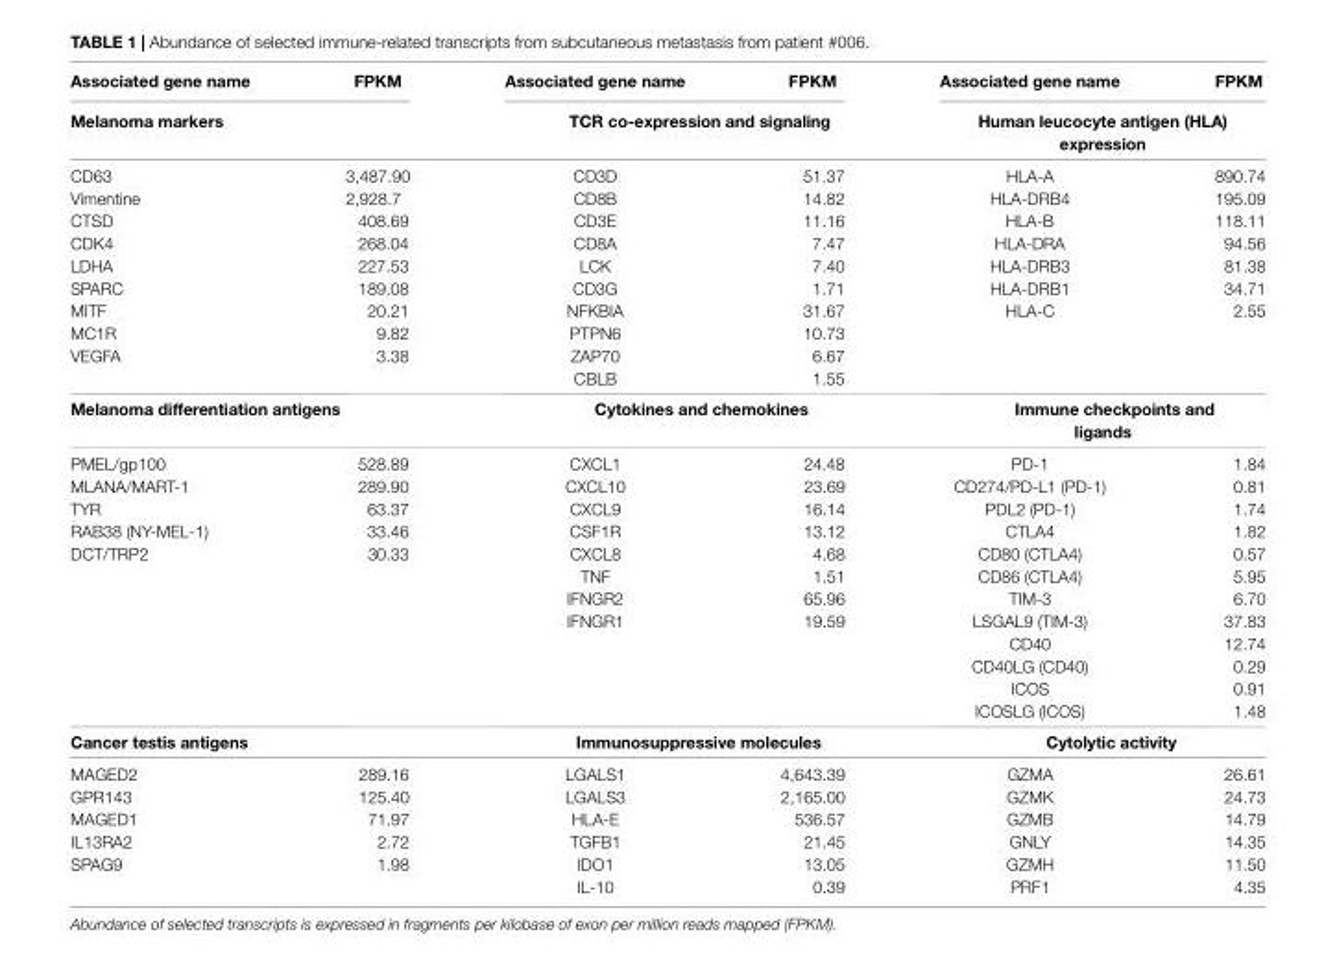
<table><thead><tr><td>associated gene name</td><td>FpKM</td><td>associated gene name</td><td>FpKM</td><td>associated gene name</td><td>FpKM</td></tr><tr><td colspan="2">Melanoma markers</td><td colspan="2">tCR co-expression and signaling</td><td colspan="2">Human leucocyte antigen (HLa) expression</td></tr></thead><tbody><tr><td>CD63</td><td>3,487.90</td><td>CD3D</td><td>51.37</td><td>HLA-A</td><td>890.74</td></tr><tr><td>Vimentine</td><td>2,928.7</td><td>CD8B</td><td>14.82</td><td>HLA-DRB4</td><td>195.09</td></tr><tr><td>CTSD</td><td>408.69</td><td>CD3E</td><td>11.16</td><td>HLA-B</td><td>118.11</td></tr><tr><td>CDK4</td><td>268.04</td><td>CD8A</td><td>7.47</td><td>HLA-DRA</td><td>94.56</td></tr><tr><td>LDHA</td><td>227.53</td><td>LCK</td><td>7.40</td><td>HLA-DRB3</td><td>81.38</td></tr><tr><td>SPARC</td><td>189.08</td><td>CD3G</td><td>1.71</td><td>HLA-DRB1</td><td>34.71</td></tr><tr><td>MITF</td><td>20.21</td><td>NFKBIA</td><td>31.67</td><td>HLA-C</td><td>2.55</td></tr><tr><td>MC1R</td><td>9.82</td><td>PTPN6</td><td>10.73</td><td colspan="2"></td></tr><tr><td rowspan="2">VEGFA</td><td>3.38</td><td>ZAP70</td><td>6.67</td><td colspan="2"></td></tr><tr><td></td><td>CBLB</td><td>1.55</td><td colspan="2"></td></tr><tr><td colspan="2">Melanoma differentiation antigens</td><td colspan="2">Cytokines and chemokines</td><td colspan="2">Immune checkpoints and ligands</td></tr><tr><td>PMEL/gp100</td><td>528.89</td><td>CXCL1</td><td>24.48</td><td>PD-1</td><td>1.84</td></tr><tr><td>MLANA/MART-1</td><td>289.90</td><td>CXCL10</td><td>23.69</td><td>CD274/PD-L1 (PD-1)</td><td>0.81</td></tr><tr><td>TYR</td><td>63.37</td><td>CXCL9</td><td>16.14</td><td>PDL2 (PD-1)</td><td>1.74</td></tr><tr><td>RAB38 (NY-MEL-1)</td><td>33.46</td><td>CSF1R</td><td>13.12</td><td>CTLA4</td><td>1.82</td></tr><tr><td rowspan="8">DCT/TRP2</td><td>30.33</td><td>CXCL8</td><td>4.68</td><td>CD80 (CTLA4)</td><td>0.57</td></tr><tr><td></td><td>TNF</td><td>1.51</td><td>CD86 (CTLA4)</td><td>5.95</td></tr><tr><td></td><td>IFNGR2</td><td>65.96</td><td>TIM-3</td><td>6.70</td></tr><tr><td></td><td>IFNGR1</td><td>19.59</td><td>LSGAL9 (TIM-3)</td><td>37.83</td></tr><tr><td></td><td></td><td></td><td>CD40</td><td>12.74</td></tr><tr><td></td><td colspan="2"></td><td>CD40LG (CD40)</td><td>0.29</td></tr><tr><td></td><td></td><td></td><td>ICOS</td><td>0.91</td></tr><tr><td></td><td></td><td></td><td>ICOSLG (ICOS)</td><td>1.48</td></tr><tr><td colspan="2">Cancer testis antigens</td><td colspan="2">Immunosuppressive molecules</td><td colspan="2">Cytolytic activity</td></tr><tr><td>MAGED2</td><td>289.16</td><td>LGALS1</td><td>4,643.39</td><td>GZMA</td><td>26.61</td></tr><tr><td>GPR143</td><td>125.40</td><td>LGALS3</td><td>2,165.00</td><td>GZMK</td><td>24.73</td></tr><tr><td>MAGED1</td><td>71.97</td><td>HLA-E</td><td>536.57</td><td>GZMB</td><td>14.79</td></tr><tr><td>IL13RA2</td><td>2.72</td><td>TGFB1</td><td>21.45</td><td>GNLY</td><td>14.35</td></tr><tr><td rowspan="2">SPAG9</td><td>1.98</td><td>IDO1</td><td>13.05</td><td>GZMH</td><td>11.50</td></tr><tr><td></td><td>IL-10</td><td>0.39</td><td>PRF1</td><td>4.35</td></tr></tbody></table>